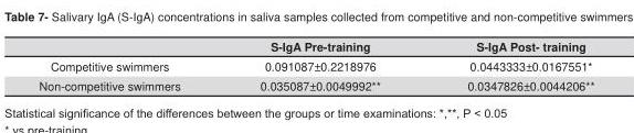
<table><thead><tr><td></td><td>S-IgA Pre-training</td><td>S-IgA Post- training</td></tr></thead><tbody><tr><td>Competitive swimmers</td><td>0.091087±0.2218976</td><td>0.0443333±0.0167551*</td></tr><tr><td>Non-competitive swimmers</td><td>0.035087±0.0049992**</td><td>0.0347826±0.0044206**</td></tr></tbody></table>